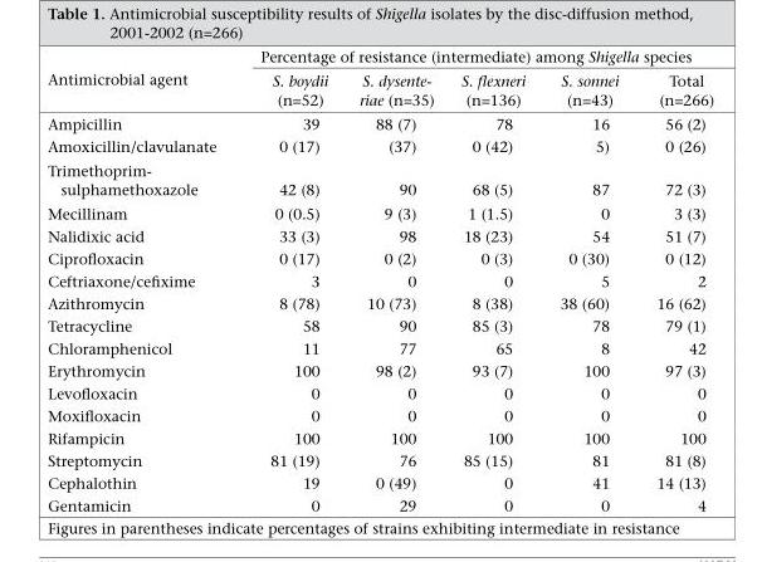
<table><thead><tr><td rowspan="2">Antimicrobial agent</td><td colspan="5">Percentage of resistance (intermediate) among Shigella species</td></tr><tr><td>S. boydii (n=52)</td><td>S. dysente- riae (n=35)</td><td>S. flexneri (n=136)</td><td>S. sonnei (n=43)</td><td>Total (n=266)</td></tr></thead><tbody><tr><td>Ampicillin</td><td>39</td><td>88 (7)</td><td>78</td><td>16</td><td>56 (2)</td></tr><tr><td>Amoxicillin/clavulanate</td><td>0 (17)</td><td>(37)</td><td>0 (42)</td><td>5)</td><td>0 (26)</td></tr><tr><td>Trimethoprim- sulphamethoxazole</td><td>42 (8)</td><td>90</td><td>68 (5)</td><td>87</td><td>72 (3)</td></tr><tr><td>Mecillinam</td><td>0 (0.5)</td><td>9 (3)</td><td>1 (1.5)</td><td>0</td><td>3 (3)</td></tr><tr><td>Nalidixic acid</td><td>33 (3)</td><td>98</td><td>18 (23)</td><td>54</td><td>51 (7)</td></tr><tr><td>Ciprofloxacin</td><td>0 (17)</td><td>0 (2)</td><td>0 (3)</td><td>0 (30)</td><td>0 (12)</td></tr><tr><td>Ceftriaxone/cefixime</td><td>3</td><td>0</td><td>0</td><td>5</td><td>2</td></tr><tr><td>Azithromycin</td><td>8 (78)</td><td>10 (73)</td><td>8 (38)</td><td>38 (60)</td><td>16 (62)</td></tr><tr><td>Tetracycline</td><td>58</td><td>90</td><td>85 (3)</td><td>78</td><td>79 (1)</td></tr><tr><td>Chloramphenicol</td><td>11</td><td>77</td><td>65</td><td>8</td><td>42</td></tr><tr><td>Erythromycin</td><td>100</td><td>98 (2)</td><td>93 (7)</td><td>100</td><td>97 (3)</td></tr><tr><td>Levofloxacin</td><td>0</td><td>0</td><td>0</td><td>0</td><td>0</td></tr><tr><td>Moxifloxacin</td><td>0</td><td>0</td><td>0</td><td>0</td><td>0</td></tr><tr><td>Rifampicin</td><td>100</td><td>100</td><td>100</td><td>100</td><td>100</td></tr><tr><td>Streptomycin</td><td>81 (19)</td><td>76</td><td>85 (15)</td><td>81</td><td>81 (8)</td></tr><tr><td>Cephalothin</td><td>19</td><td>0 (49)</td><td>0</td><td>41</td><td>14 (13)</td></tr><tr><td>Gentamicin</td><td>0</td><td>29</td><td>0</td><td>0</td><td>4</td></tr></tbody></table>